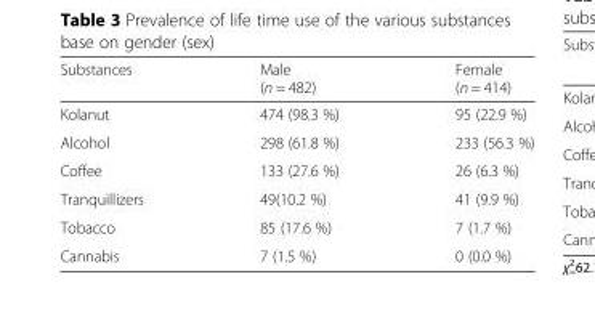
<table><thead><tr><td>Substances</td><td>Male (n = 482)</td><td>Female (n = 414)</td></tr></thead><tbody><tr><td>Kolanut</td><td>474 (98.3 %)</td><td>95 (22.9 %)</td></tr><tr><td>Alcohol</td><td>298 (61.8 %)</td><td>233 (56.3 %)</td></tr><tr><td>Coffee</td><td>133 (27.6 %)</td><td>26 (6.3 %)</td></tr><tr><td>Tranquillizers</td><td>49(10.2 %)</td><td>41 (9.9 %)</td></tr><tr><td>Tobacco</td><td>85 (17.6 %)</td><td>7 (1.7 %)</td></tr><tr><td>Cannabis</td><td>7 (1.5 %)</td><td>0 (0.0 %)</td></tr></tbody></table>